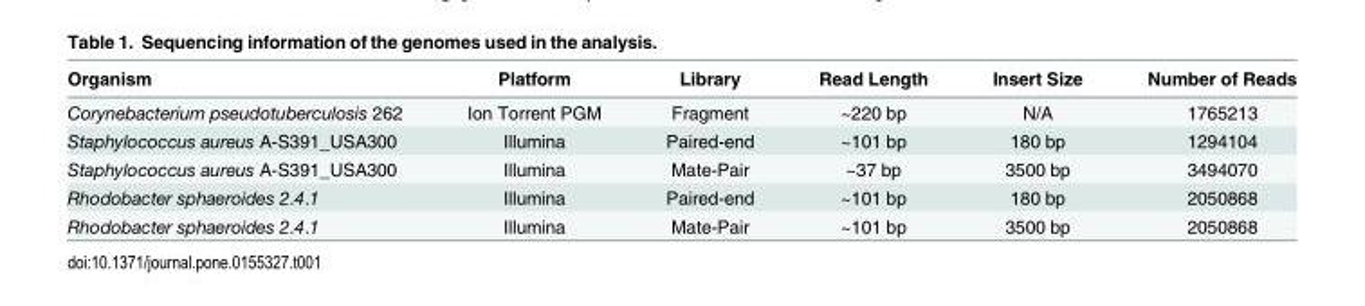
<table><thead><tr><td>Organism</td><td>Platform</td><td>Library</td><td>Read Length</td><td>Insert Size</td><td>Number of Reads</td></tr></thead><tbody><tr><td>Corynebacterium pseudotuberculosis 262</td><td>Ion Torrent PGM</td><td>Fragment</td><td>~220 bp</td><td>N/A</td><td>1765213</td></tr><tr><td>Staphylococcus aureus A-S391_USA300</td><td>Illumina</td><td>Paired-end</td><td>~101 bp</td><td>180 bp</td><td>1294104</td></tr><tr><td>Staphylococcus aureus A-S391_USA300</td><td>Illumina</td><td>Mate-Pair</td><td>~37 bp</td><td>3500 bp</td><td>3494070</td></tr><tr><td>Rhodobacter sphaeroides 2.4.1</td><td>Illumina</td><td>Paired-end</td><td>~101 bp</td><td>180 bp</td><td>2050868</td></tr><tr><td>Rhodobacter sphaeroides 2.4.1</td><td>Illumina</td><td>Mate-Pair</td><td>~101 bp</td><td>3500 bp</td><td>2050868</td></tr></tbody></table>